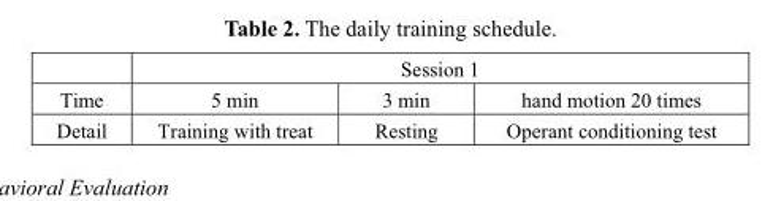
<table><thead><tr><td rowspan="2">Time</td><td colspan="3">Session 1</td></tr><tr><td>5 min</td><td>3 min</td><td>hand motion 20 times</td></tr></thead><tbody><tr><td>Detail</td><td>Training with treat</td><td>Resting</td><td>Operant conditioning test</td></tr></tbody></table>